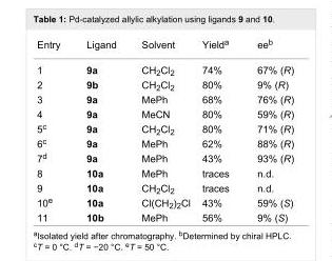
<table><tbody><tr><td>Entry</td><td>Ligand</td><td>Solvent</td><td>Yield<sup>a</sup></td><td>ee<sup>b</sup></td></tr><tr><td>1</td><td>9a</td><td>CH<sub>2</sub>Cl<sub>2</sub></td><td>74%</td><td>67% (R)</td></tr><tr><td>2</td><td>9b</td><td>CH<sub>2</sub>Cl<sub>2</sub></td><td>80%</td><td>9% (R)</td></tr><tr><td>3</td><td>9a</td><td>MePh</td><td>68%</td><td>76% (R)</td></tr><tr><td>4</td><td>9a</td><td>MeCN</td><td>80%</td><td>59% (R)</td></tr><tr><td>5<sup>c</sup></td><td>9a</td><td>CH<sub>2</sub>Cl<sub>2</sub></td><td>80%</td><td>71% (R)</td></tr><tr><td>6<sup>c</sup></td><td>9a</td><td>MePh</td><td>62%</td><td>88% (R)</td></tr><tr><td>7<sup>d</sup></td><td>9a</td><td>MePh</td><td>43%</td><td>93% (R)</td></tr><tr><td>8</td><td>10a</td><td>MePh</td><td>traces</td><td>n.d.</td></tr><tr><td>9</td><td>10a</td><td>CH<sub>2</sub>Cl<sub>2</sub></td><td>traces</td><td>n.d.</td></tr><tr><td>10<sup>e</sup></td><td>10a</td><td>Cl(CH<sub>2</sub>)<sub>2</sub>Cl</td><td>43%</td><td>59% (S)</td></tr><tr><td>11</td><td>10b</td><td>MePh</td><td>56%</td><td>9% (S)</td></tr></tbody></table>